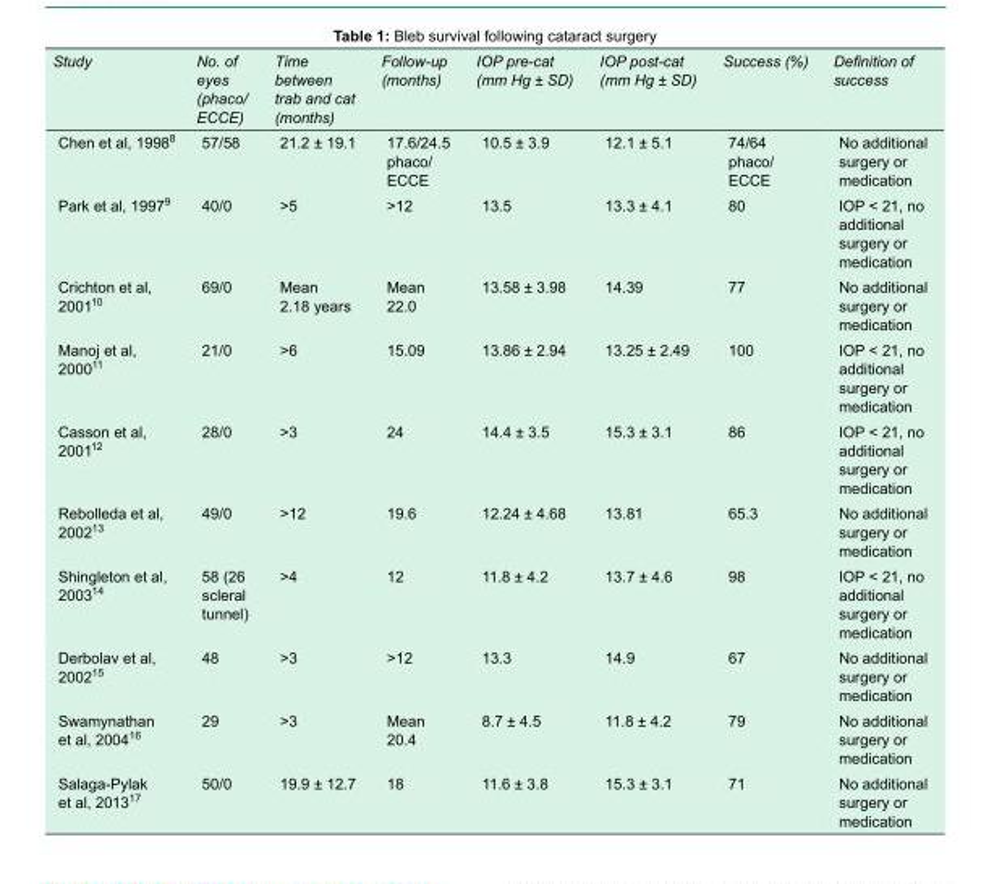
<table><tbody><tr><td>Study</td><td>No. of eyes (phaco/ ECCE)</td><td>Time between trab and cat (months)</td><td>Follow-up (months)</td><td>IOP pre-cat (mm Hg ± SD)</td><td>IOP post-cat (mm Hg ± SD)</td><td>Success (%)</td><td>Definition of success</td></tr><tr><td>Chen et al, 1998<sup>8</sup></td><td>57/58</td><td>21.2 ± 19.1</td><td>17.6/24.5 phaco/ ECCE</td><td>10.5 ± 3.9</td><td>12.1 ± 5.1</td><td>74/64 phaco/ ECCE</td><td>No additional surgery or medication</td></tr><tr><td>Park et al, 1997<sup>9</sup></td><td>40/0</td><td>&gt;5</td><td>&gt;12</td><td>13.5</td><td>13.3 ± 4.1</td><td>80</td><td>IOP &lt; 21, no additional surgery or medication</td></tr><tr><td>Crichton et al, 2001<sup>10</sup></td><td>69/0</td><td>Mean 2.18 years</td><td>Mean 22.0</td><td>13.58 ± 3.98</td><td>14.39</td><td>77</td><td>No additional surgery or medication</td></tr><tr><td>Manoj et al, 2000<sup>11</sup></td><td>21/0</td><td>&gt;6</td><td>15.09</td><td>13.86 ± 2.94</td><td>13.25 ± 2.49</td><td>100</td><td>IOP &lt; 21, no additional surgery or medication</td></tr><tr><td>Casson et al, 2001<sup>12</sup></td><td>28/0</td><td>&gt;3</td><td>24</td><td>14.4 ± 3.5</td><td>15.3 ± 3.1</td><td>86</td><td>IOP &lt; 21, no additional surgery or medication</td></tr><tr><td>Rebolleda et al, 2002<sup>13</sup></td><td>49/0</td><td>&gt;12</td><td>19.6</td><td>12.24 ± 4.68</td><td>13.81</td><td>65.3</td><td>No additional surgery or medication</td></tr><tr><td>Shingleton et al, 2003<sup>14</sup></td><td>58 (26 scleral tunnel)</td><td>&gt;4</td><td>12</td><td>11.8 ± 4.2</td><td>13.7 ± 4.6</td><td>98</td><td>IOP &lt; 21, no additional surgery or medication</td></tr><tr><td>Derbolav et al, 2002<sup>15</sup></td><td>48</td><td>&gt;3</td><td>&gt;12</td><td>13.3</td><td>14.9</td><td>67</td><td>No additional surgery or medication</td></tr><tr><td>Swamynathan et al, 2004<sup>16</sup></td><td>29</td><td>&gt;3</td><td>Mean 20.4</td><td>8.7 ± 4.5</td><td>11.8 ± 4.2</td><td>79</td><td>No additional surgery or medication</td></tr><tr><td>Salaga-Pylak et al, 2013<sup>17</sup></td><td>50/0</td><td>19.9 ± 12.7</td><td>18</td><td>11.6 ± 3.8</td><td>15.3 ± 3.1</td><td>71</td><td>No additional surgery or medication</td></tr></tbody></table>